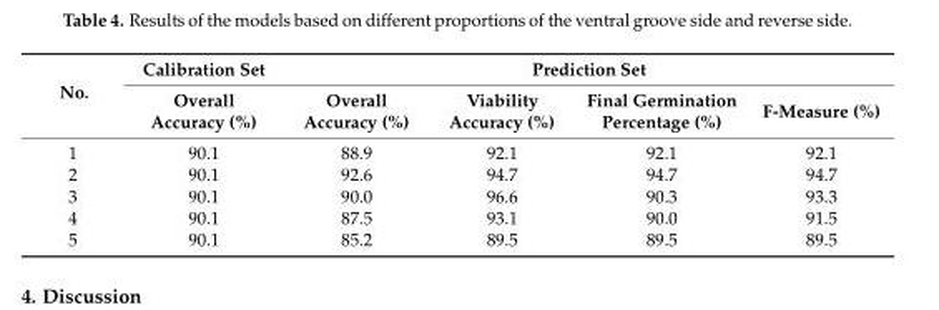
<table><thead><tr><td rowspan="2">No.</td><td rowspan="2">Calibration Set Overall Accuracy (%)</td><td colspan="4">Prediction Set</td></tr><tr><td>Overall Accuracy (%)</td><td>Viability Accuracy (%)</td><td>Final Germination Percentage (%)</td><td>F-Measure (%)</td></tr></thead><tbody><tr><td>1</td><td>90.1</td><td>88.9</td><td>92.1</td><td>92.1</td><td>92.1</td></tr><tr><td>2</td><td>90.1</td><td>92.6</td><td>94.7</td><td>94.7</td><td>94.7</td></tr><tr><td>3</td><td>90.1</td><td>90.0</td><td>96.6</td><td>90.3</td><td>93.3</td></tr><tr><td>4</td><td>90.1</td><td>87.5</td><td>93.1</td><td>90.0</td><td>91.5</td></tr><tr><td>5</td><td>90.1</td><td>85.2</td><td>89.5</td><td>89.5</td><td>89.5</td></tr></tbody></table>